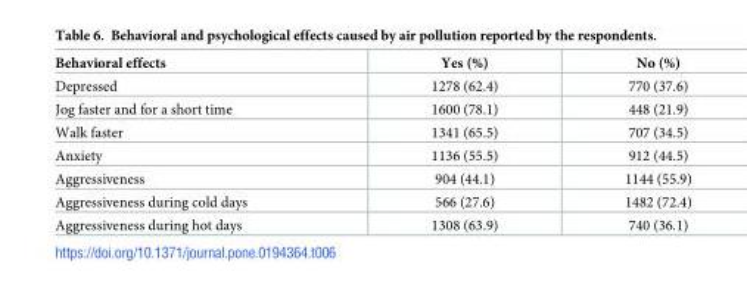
<table><thead><tr><td>Behavioral effects</td><td>Yes (%)</td><td>No (%)</td></tr></thead><tbody><tr><td>Depressed</td><td>1278 (62.4)</td><td>770 (37.6)</td></tr><tr><td>Jog faster and for a short time</td><td>1600 (78.1)</td><td>448 (21.9)</td></tr><tr><td>Walk faster</td><td>1341 (65.5)</td><td>707 (34.5)</td></tr><tr><td>Anxiety</td><td>1136 (55.5)</td><td>912 (44.5)</td></tr><tr><td>Aggressiveness</td><td>904 (44.1)</td><td>1144 (55.9)</td></tr><tr><td>Aggressiveness during cold days</td><td>566 (27.6)</td><td>1482 (72.4)</td></tr><tr><td>Aggressiveness during hot days</td><td>1308 (63.9)</td><td>740 (36.1)</td></tr></tbody></table>